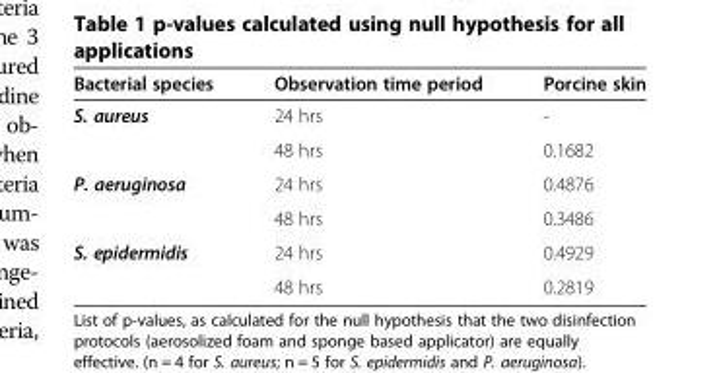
<table><thead><tr><td>Bacterial species</td><td>Observation time period</td><td>Porcine skin</td></tr></thead><tbody><tr><td rowspan="2">S. aureus</td><td>24 hrs</td><td>-</td></tr><tr><td>48 hrs</td><td>0.1682</td></tr><tr><td rowspan="2">P. aeruginosa</td><td>24 hrs</td><td>0.4876</td></tr><tr><td>48 hrs</td><td>0.3486</td></tr><tr><td rowspan="2">S. epidermidis</td><td>24 hrs</td><td>0.4929</td></tr><tr><td>48 hrs</td><td>0.2819</td></tr></tbody></table>